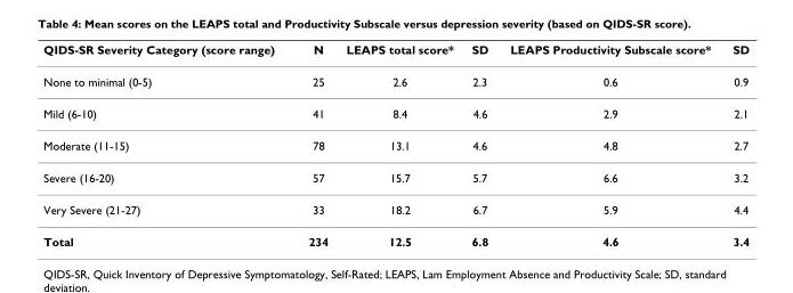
<table><thead><tr><td>QIDS-SR Severity Category (score range)</td><td>N</td><td>LEAPS total score*</td><td>SD</td><td>LEAPS Productivity Subscale score*</td><td>SD</td></tr></thead><tbody><tr><td>None to minimal (0-5)</td><td>25</td><td>2.6</td><td>2.3</td><td>0.6</td><td>0.9</td></tr><tr><td>Mild (6-10)</td><td>41</td><td>8.4</td><td>4.6</td><td>2.9</td><td>2.1</td></tr><tr><td>Moderate (11-15)</td><td>78</td><td>13.1</td><td>4.6</td><td>4.8</td><td>2.7</td></tr><tr><td>Severe (16-20)</td><td>57</td><td>15.7</td><td>5.7</td><td>6.6</td><td>3.2</td></tr><tr><td>Very Severe (21-27)</td><td>33</td><td>18.2</td><td>6.7</td><td>5.9</td><td>4.4</td></tr><tr><td>Total</td><td>234</td><td>12.5</td><td>6.8</td><td>4.6</td><td>3.4</td></tr></tbody></table>